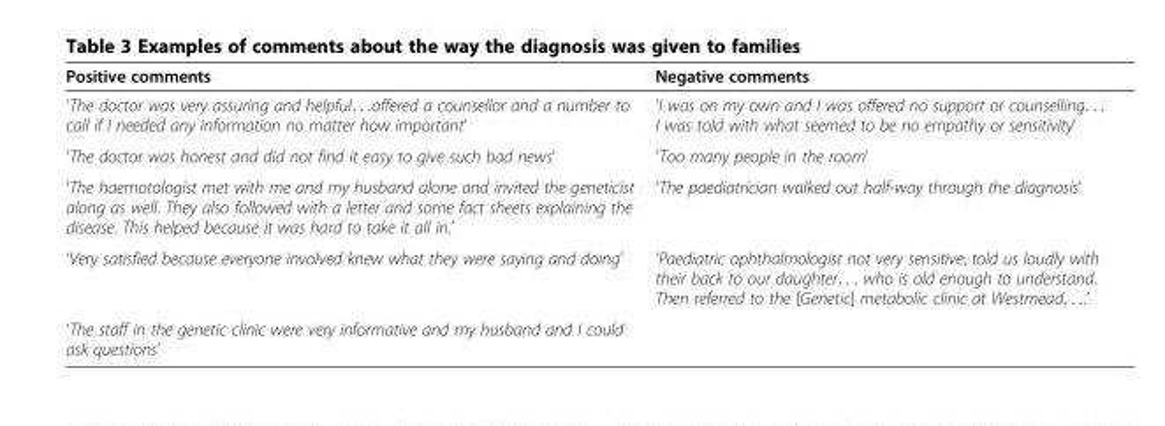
<table><thead><tr><td>Positive comments</td><td>Negative comments</td></tr></thead><tbody><tr><td>‘The doctor was very assuring and helpful. . .offered a counsellor and a number to call if I needed any information no matter how important’</td><td>‘I was on my own and I was offered no support or counselling. . I was told with what seemed to be no empathy or sensitivity’</td></tr><tr><td>‘The doctor was honest and did not find it easy to give such bad news’</td><td>‘Too many people in the room’</td></tr><tr><td>‘The haemotologist met with me and my husband alone and invited the geneticist along as well. They also followed with a letter and some fact sheets explaining the disease. This helped because it was hard to take it all in.’</td><td>‘The paediatrician walked out half-way through the diagnosis’</td></tr><tr><td>‘Very satisfied because everyone involved knew what they were saying and doing’</td><td>‘Paediatric ophthalmologist not very sensitive; told us loudly with their back to our daughter. . . who is old enough to understand. Then referred to the [Genetic] metabolic clinic at Westmead. . ..’</td></tr><tr><td>‘The staff in the genetic clinic were very informative and my husband and I could ask questions’</td><td></td></tr></tbody></table>